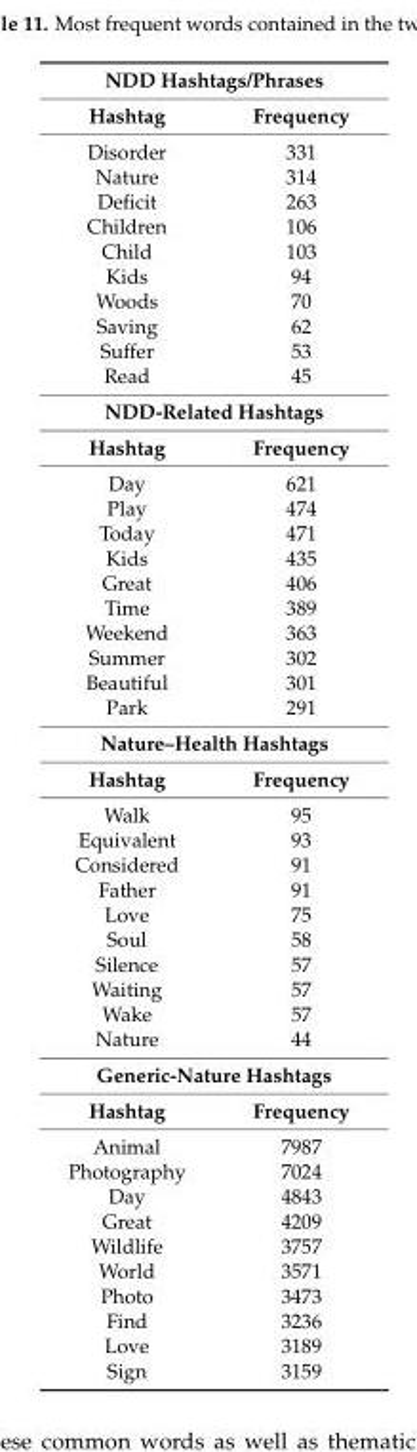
<table><tbody><tr><td colspan="2">NDD Hashtags/Phrases</td></tr><tr><td>Hashtag</td><td>Frequency</td></tr><tr><td>Disorder</td><td>331</td></tr><tr><td>Nature</td><td>314</td></tr><tr><td>Deficit</td><td>263</td></tr><tr><td>Children</td><td>106</td></tr><tr><td>Child</td><td>103</td></tr><tr><td>Kids</td><td>94</td></tr><tr><td>Woods</td><td>70</td></tr><tr><td>Saving</td><td>62</td></tr><tr><td>Suffer</td><td>53</td></tr><tr><td>Read</td><td>45</td></tr><tr><td colspan="2">NDD-Related Hashtags</td></tr><tr><td>Hashtag</td><td>Frequency</td></tr><tr><td>Day</td><td>621</td></tr><tr><td>Play</td><td>474</td></tr><tr><td>Today</td><td>471</td></tr><tr><td>Kids</td><td>435</td></tr><tr><td>Great</td><td>406</td></tr><tr><td>Time</td><td>389</td></tr><tr><td>Weekend</td><td>363</td></tr><tr><td>Summer</td><td>302</td></tr><tr><td>Beautiful</td><td>301</td></tr><tr><td>Park</td><td>291</td></tr><tr><td colspan="2">Nature–Health Hashtags</td></tr><tr><td>Hashtag</td><td>Frequency</td></tr><tr><td>Walk</td><td>95</td></tr><tr><td>Equivalent</td><td>93</td></tr><tr><td>Considered</td><td>91</td></tr><tr><td>Father</td><td>91</td></tr><tr><td>Love</td><td>75</td></tr><tr><td>Soul</td><td>58</td></tr><tr><td>Silence</td><td>57</td></tr><tr><td>Waiting</td><td>57</td></tr><tr><td>Wake</td><td>57</td></tr><tr><td>Nature</td><td>44</td></tr><tr><td colspan="2">Generic-Nature Hashtags</td></tr><tr><td>Hashtag</td><td>Frequency</td></tr><tr><td>Animal</td><td>7987</td></tr><tr><td>Photography</td><td>7024</td></tr><tr><td>Day</td><td>4843</td></tr><tr><td>Great</td><td>4209</td></tr><tr><td>Wildlife</td><td>3757</td></tr><tr><td>World</td><td>3571</td></tr><tr><td>Photo</td><td>3473</td></tr><tr><td>Find</td><td>3236</td></tr><tr><td>Love</td><td>3189</td></tr><tr><td>Sign</td><td>3159</td></tr></tbody></table>